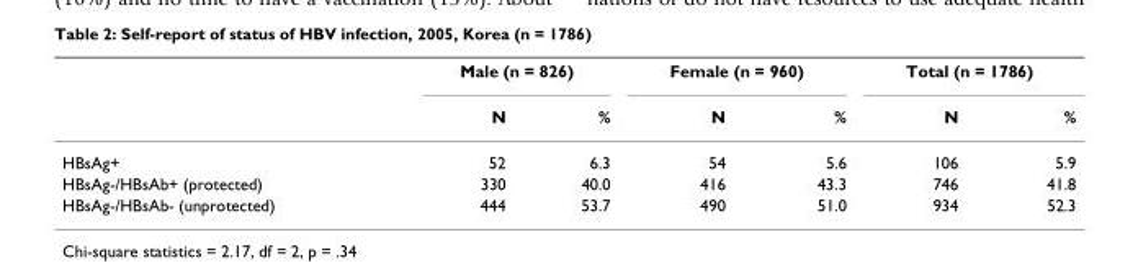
<table><thead><tr><td rowspan="2"></td><td colspan="2">Male (n = 826)</td><td colspan="2">Female (n = 960)</td><td colspan="2">Total (n = 1786)</td></tr><tr><td>N</td><td>%</td><td>N</td><td>%</td><td>N</td><td>%</td></tr></thead><tbody><tr><td>HBsAg+</td><td>52</td><td>6.3</td><td>54</td><td>5.6</td><td>106</td><td>5.9</td></tr><tr><td>HBsAg-/HBsAb+ (protected)</td><td>330</td><td>40.0</td><td>416</td><td>43.3</td><td>746</td><td>41.8</td></tr><tr><td>HBsAg-/HBsAb- (unprotected)</td><td>444</td><td>53.7</td><td>490</td><td>51.0</td><td>934</td><td>52.3</td></tr></tbody></table>